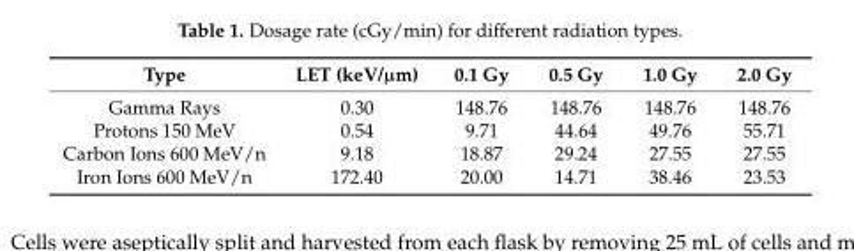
<table><thead><tr><td>Type</td><td>LET (keV/µm)</td><td>0.1 Gy</td><td>0.5 Gy</td><td>1.0 Gy</td><td>2.0 Gy</td></tr></thead><tbody><tr><td>Gamma Rays</td><td>0.30</td><td>148.76</td><td>148.76</td><td>148.76</td><td>148.76</td></tr><tr><td>Protons 150 MeV</td><td>0.54</td><td>9.71</td><td>44.64</td><td>49.76</td><td>55.71</td></tr><tr><td>Carbon Ions 600 MeV/n</td><td>9.18</td><td>18.87</td><td>29.24</td><td>27.55</td><td>27.55</td></tr><tr><td>Iron Ions 600 MeV/n</td><td>172.40</td><td>20.00</td><td>14.71</td><td>38.46</td><td>23.53</td></tr></tbody></table>